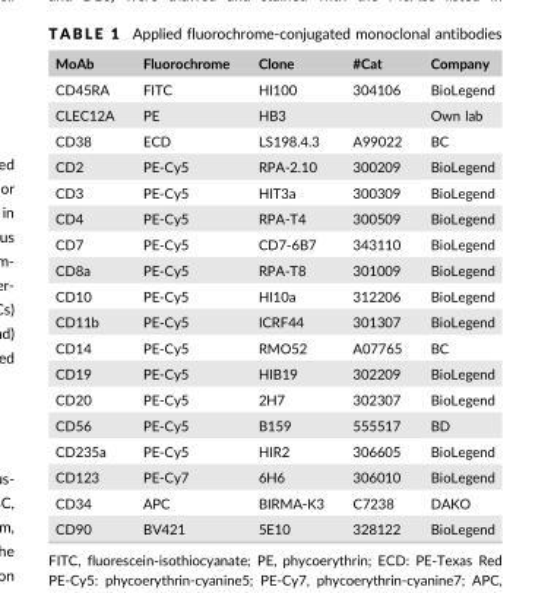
<table><thead><tr><td>MoAb</td><td>Fluorochrome</td><td>Clone</td><td>#Cat</td><td>Company</td></tr></thead><tbody><tr><td>CD45RA</td><td>FITC</td><td>HI100</td><td>304106</td><td>BioLegend</td></tr><tr><td>CLEC12A</td><td>PE</td><td>HB3</td><td></td><td>Own lab</td></tr><tr><td>CD38</td><td>ECD</td><td>LS198.4.3</td><td>A99022</td><td>BC</td></tr><tr><td>CD2</td><td>PE-Cy5</td><td>RPA-2.10</td><td>300209</td><td>BioLegend</td></tr><tr><td>CD3</td><td>PE-Cy5</td><td>HIT3a</td><td>300309</td><td>BioLegend</td></tr><tr><td>CD4</td><td>PE-Cy5</td><td>RPA-T4</td><td>300509</td><td>BioLegend</td></tr><tr><td>CD7</td><td>PE-Cy5</td><td>CD7-6B7</td><td>343110</td><td>BioLegend</td></tr><tr><td>CD8a</td><td>PE-Cy5</td><td>RPA-T8</td><td>301009</td><td>BioLegend</td></tr><tr><td>CD10</td><td>PE-Cy5</td><td>HI10a</td><td>312206</td><td>BioLegend</td></tr><tr><td>CD11b</td><td>PE-Cy5</td><td>ICRF44</td><td>301307</td><td>BioLegend</td></tr><tr><td>CD14</td><td>PE-Cy5</td><td>RMO52</td><td>A07765</td><td>BC</td></tr><tr><td>CD19</td><td>PE-Cy5</td><td>HIB19</td><td>302209</td><td>BioLegend</td></tr><tr><td>CD20</td><td>PE-Cy5</td><td>2H7</td><td>302307</td><td>BioLegend</td></tr><tr><td>CD56</td><td>PE-Cy5</td><td>B159</td><td>555517</td><td>BD</td></tr><tr><td>CD235a</td><td>PE-Cy5</td><td>HIR2</td><td>306605</td><td>BioLegend</td></tr><tr><td>CD123</td><td>PE-Cy7</td><td>6H6</td><td>306010</td><td>BioLegend</td></tr><tr><td>CD34</td><td>APC</td><td>BIRMA-K3</td><td>C7238</td><td>DAKO</td></tr><tr><td>CD90</td><td>BV421</td><td>5E10</td><td>328122</td><td>BioLegend</td></tr></tbody></table>